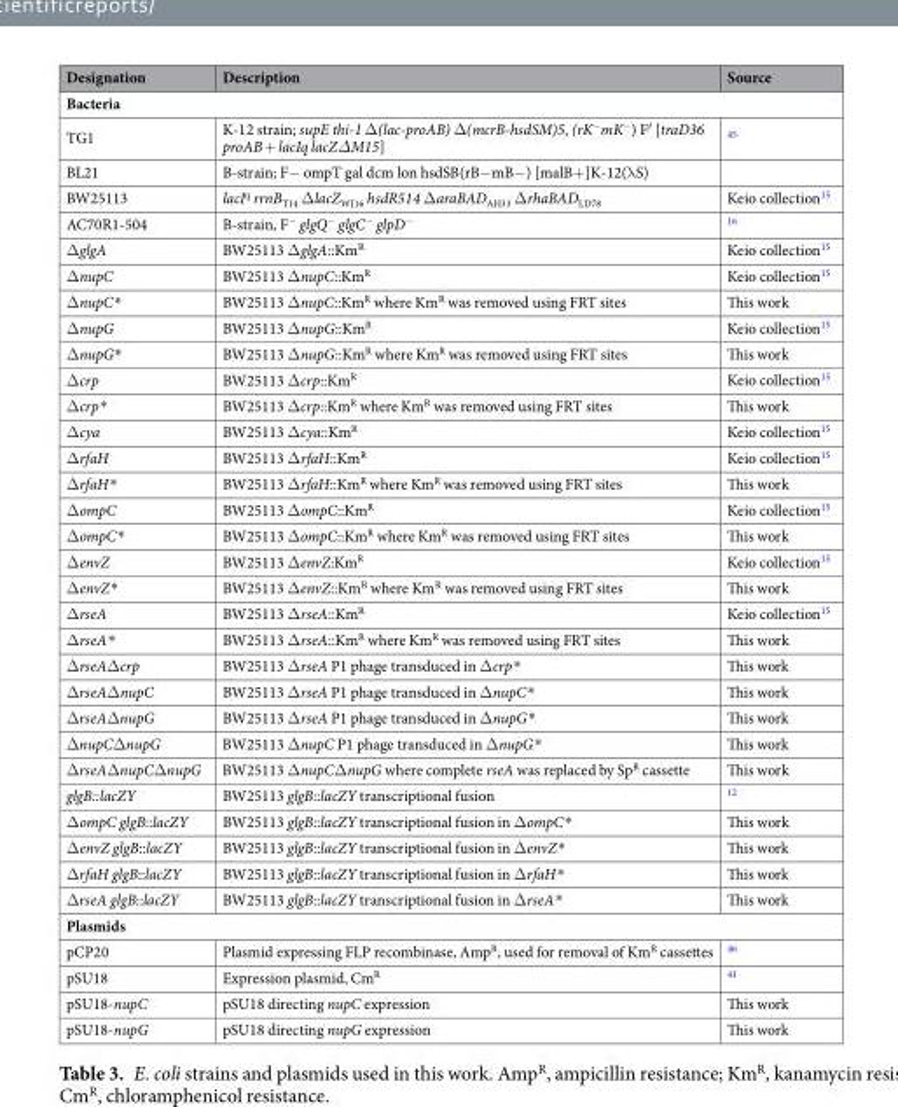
<table><thead><tr><td>Designation</td><td>Description</td><td>Source</td></tr></thead><tbody><tr><td colspan="3">Bacteria</td></tr><tr><td>TG1</td><td>K-12 strain; supE thi-1 Δ(lac-proAB) Δ(mcrB-hsdSM)5, (rK<sup>−</sup>mK<sup>−</sup>) F′ [traD36 proAB + lacIq lacZΔM15]</td><td><sup>45</sup></td></tr><tr><td>BL21</td><td>B-strain; F− ompT gal dcm lon hsdSB(rB−mB−) [malB+]K-12(λS)</td><td></td></tr><tr><td>BW25113</td><td>lacI<sup>q</sup> rrnB<sub>T14</sub> ΔlacZ<sub>WJ16</sub> hsdR514 ΔaraBAD<sub>AH33</sub> ΔrhaBAD<sub>LD78</sub></td><td>Keio collection<sup>15</sup></td></tr><tr><td>AC70R1-504</td><td>B-strain, F<sup>−</sup> glgQ<sup>−</sup> glgC<sup>−</sup> glpD<sup>−</sup></td><td><sup>16</sup></td></tr><tr><td>ΔglgA</td><td>BW25113 ΔglgA::Km<sup>R</sup></td><td>Keio collection<sup>15</sup></td></tr><tr><td>ΔnupC</td><td>BW25113 ΔnupC::Km<sup>R</sup></td><td>Keio collection<sup>15</sup></td></tr><tr><td>ΔnupC*</td><td>BW25113 ΔnupC::Km<sup>R</sup> where Km<sup>R</sup> was removed using FRT sites</td><td>This work</td></tr><tr><td>ΔnupG</td><td>BW25113 ΔnupG::Km<sup>R</sup></td><td>Keio collection<sup>15</sup></td></tr><tr><td>ΔnupG*</td><td>BW25113 ΔnupG::Km<sup>R</sup> where Km<sup>R</sup> was removed using FRT sites</td><td>This work</td></tr><tr><td>Δcrp</td><td>BW25113 Δcrp::Km<sup>R</sup></td><td>Keio collection<sup>15</sup></td></tr><tr><td>Δcrp*</td><td>BW25113 Δcrp::Km<sup>R</sup> where Km<sup>R</sup> was removed using FRT sites</td><td>This work</td></tr><tr><td>Δcya</td><td>BW25113 Δcya::Km<sup>R</sup></td><td>Keio collection<sup>15</sup></td></tr><tr><td>ΔrfaH</td><td>BW25113 ΔrfaH::Km<sup>R</sup></td><td>Keio collection<sup>15</sup></td></tr><tr><td>ΔrfaH*</td><td>BW25113 ΔrfaH::Km<sup>R</sup> where Km<sup>R</sup> was removed using FRT sites</td><td>This work</td></tr><tr><td>ΔompC</td><td>BW25113 ΔompC::Km<sup>R</sup></td><td>Keio collection<sup>15</sup></td></tr><tr><td>ΔompC*</td><td>BW25113 ΔompC::Km<sup>R</sup> where Km<sup>R</sup> was removed using FRT sites</td><td>This work</td></tr><tr><td>ΔenvZ</td><td>BW25113 ΔenvZ:Km<sup>R</sup></td><td>Keio collection<sup>15</sup></td></tr><tr><td>ΔenvZ*</td><td>BW25113 ΔenvZ::Km<sup>R</sup> where Km<sup>R</sup> was removed using FRT sites</td><td>This work</td></tr><tr><td>ΔrseA</td><td>BW25113 ΔrseA::Km<sup>R</sup></td><td>Keio collection<sup>15</sup></td></tr><tr><td>ΔrseA*</td><td>BW25113 ΔrseA::Km<sup>R</sup> where Km<sup>R</sup> was removed using FRT sites</td><td>This work</td></tr><tr><td>ΔrseAΔcrp</td><td>BW25113 ΔrseA P1 phage transduced in Δcrp*</td><td>This work</td></tr><tr><td>ΔrseAΔnupC</td><td>BW25113 ΔrseA P1 phage transduced in ΔnupC*</td><td>This work</td></tr><tr><td>ΔrseAΔnupG</td><td>BW25113 ΔrseA P1 phage transduced in ΔnupG*</td><td>This work</td></tr><tr><td>ΔnupCΔnupG</td><td>BW25113 ΔnupC P1 phage transduced in ΔnupG*</td><td>This work</td></tr><tr><td>ΔrseAΔnupCΔnupG</td><td>BW25113 ΔnupCΔnupG where complete rseA was replaced by Sp<sup>R</sup> cassette</td><td>This work</td></tr><tr><td>glgB::lacZY</td><td>BW25113 glgB::lacZY transcriptional fusion</td><td><sup>12</sup></td></tr><tr><td>ΔompC glgB::lacZY</td><td>BW25113 glgB::lacZY transcriptional fusion in ΔompC*</td><td>This work</td></tr><tr><td>ΔenvZ glgB::lacZY</td><td>BW25113 glgB::lacZY transcriptional fusion in ΔenvZ*</td><td>This work</td></tr><tr><td>ΔrfaH glgB::lacZY</td><td>BW25113 glgB::lacZY transcriptional fusion in ΔrfaH*</td><td>This work</td></tr><tr><td>ΔrseA glgB::lacZY</td><td>BW25113 glgB::lacZY transcriptional fusion in ΔrseA*</td><td>This work</td></tr><tr><td colspan="3">Plasmids</td></tr><tr><td>pCP20</td><td>Plasmid expressing FLP recombinase, Amp<sup>R</sup>, used for removal of Km<sup>R</sup> cassettes</td><td><sup>46</sup></td></tr><tr><td>pSU18</td><td>Expression plasmid, Cm<sup>R</sup></td><td><sup>41</sup></td></tr><tr><td>pSU18-nupC</td><td>pSU18 directing nupC expression</td><td>This work</td></tr><tr><td>pSU18-nupG</td><td>pSU18 directing nupG expression</td><td>This work</td></tr></tbody></table>